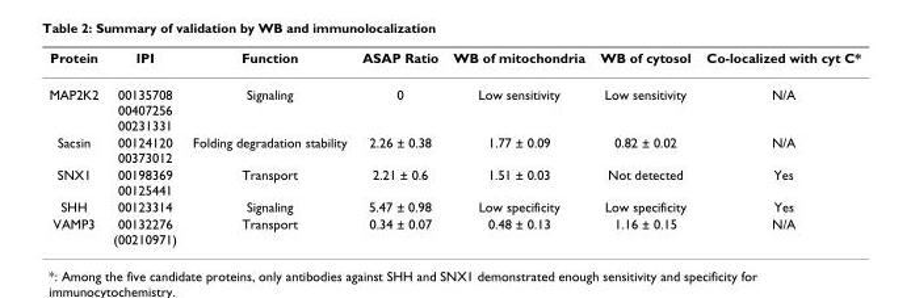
<table><thead><tr><td>Protein</td><td>IPI</td><td>Function</td><td>ASAP Ratio</td><td>WB of mitochondria</td><td>WB of cytosol</td><td>Co-localized with cyt C*</td></tr></thead><tbody><tr><td>MAP2K2</td><td>00135708 00407256 00231331</td><td>Signaling</td><td>0</td><td>Low sensitivity</td><td>Low sensitivity</td><td>N/A</td></tr><tr><td>Sacsin</td><td>00124120 00373012</td><td>Folding degradation stability</td><td>2.26 ± 0.38</td><td>1.77 ± 0.09</td><td>0.82 ± 0.02</td><td>N/A</td></tr><tr><td>SNX1</td><td>00198369 00125441</td><td>Transport</td><td>2.21 ± 0.6</td><td>1.51 ± 0.03</td><td>Not detected</td><td>Yes</td></tr><tr><td>SHH</td><td>00123314</td><td>Signaling</td><td>5.47 ± 0.98</td><td>Low specificity</td><td>Low specificity</td><td>Yes</td></tr><tr><td>VAMP3</td><td>00132276 (00210971)</td><td>Transport</td><td>0.34 ± 0.07</td><td>0.48 ± 0.13</td><td>1.16 ± 0.15</td><td>N/A</td></tr></tbody></table>